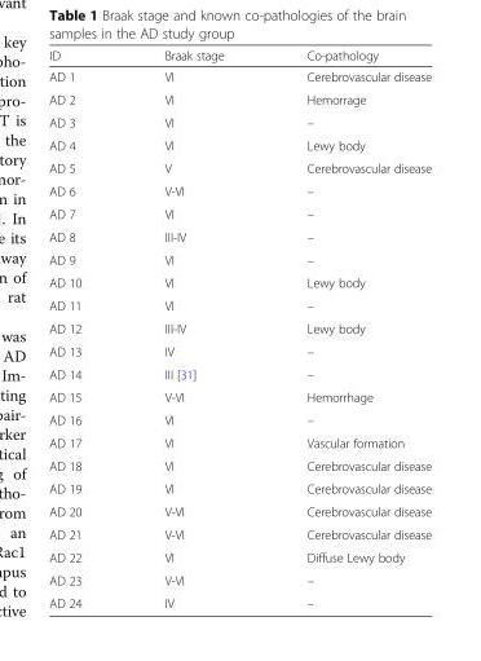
<table><thead><tr><td>ID</td><td>Braak stage</td><td>Co-pathology</td></tr></thead><tbody><tr><td>AD 1</td><td>VI</td><td>Cerebrovascular disease</td></tr><tr><td>AD 2</td><td>VI</td><td>Hemorrage</td></tr><tr><td>AD 3</td><td>VI</td><td>–</td></tr><tr><td>AD 4</td><td>VI</td><td>Lewy body</td></tr><tr><td>AD 5</td><td>V</td><td>Cerebrovascular disease</td></tr><tr><td>AD 6</td><td>V-VI</td><td>–</td></tr><tr><td>AD 7</td><td>VI</td><td>–</td></tr><tr><td>AD 8</td><td>III-IV</td><td>–</td></tr><tr><td>AD 9</td><td>VI</td><td>–</td></tr><tr><td>AD 10</td><td>VI</td><td>Lewy body</td></tr><tr><td>AD 11</td><td>VI</td><td>–</td></tr><tr><td>AD 12</td><td>III-IV</td><td>Lewy body</td></tr><tr><td>AD 13</td><td>IV</td><td>–</td></tr><tr><td>AD 14</td><td>III [31]</td><td>–</td></tr><tr><td>AD 15</td><td>V-VI</td><td>Hemorrhage</td></tr><tr><td>AD 16</td><td>VI</td><td>–</td></tr><tr><td>AD 17</td><td>VI</td><td>Vascular formation</td></tr><tr><td>AD 18</td><td>VI</td><td>Cerebrovascular disease</td></tr><tr><td>AD 19</td><td>VI</td><td>Cerebrovascular disease</td></tr><tr><td>AD 20</td><td>V-VI</td><td>Cerebrovascular disease</td></tr><tr><td>AD 21</td><td>V-VI</td><td>Cerebrovascular disease</td></tr><tr><td>AD 22</td><td>VI</td><td>Diffuse Lewy body</td></tr><tr><td>AD 23</td><td>V-VI</td><td>–</td></tr><tr><td>AD 24</td><td>IV</td><td>–</td></tr></tbody></table>